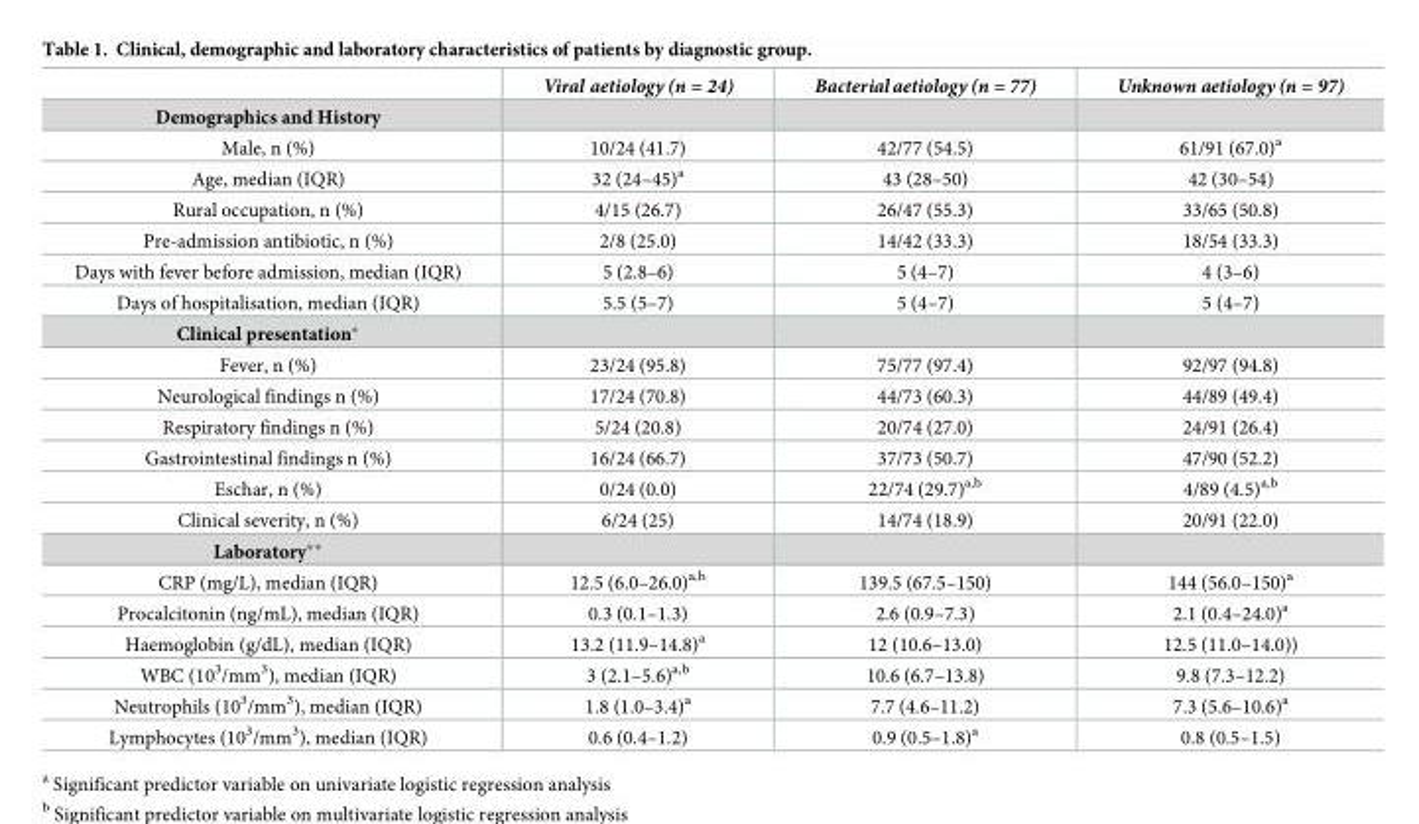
<table><thead><tr><td></td><td>Viral aetiology (n = 24)</td><td>Bacterial aetiology (n = 77)</td><td>Unknown aetiology (n = 97)</td></tr></thead><tbody><tr><td colspan="4">Demographics and History</td></tr><tr><td>Male, n (%)</td><td>10/24 (41.7)</td><td>42/77 (54.5)</td><td>61/91 (67.0)<sup>a</sup></td></tr><tr><td>Age, median (IQR)</td><td>32 (24–45)<sup>a</sup></td><td>43 (28–50)</td><td>42 (30–54)</td></tr><tr><td>Rural occupation, n (%)</td><td>4/15 (26.7)</td><td>26/47 (55.3)</td><td>33/65 (50.8)</td></tr><tr><td>Pre-admission antibiotic, n (%)</td><td>2/8 (25.0)</td><td>14/42 (33.3)</td><td>18/54 (33.3)</td></tr><tr><td>Days with fever before admission, median (IQR)</td><td>5 (2.8–6)</td><td>5 (4–7)</td><td>4 (3–6)</td></tr><tr><td>Days of hospitalisation, median (IQR)</td><td>5.5 (5–7)</td><td>5 (4–7)</td><td>5 (4–7)</td></tr><tr><td colspan="4">Clinical presentation*</td></tr><tr><td>Fever, n (%)</td><td>23/24 (95.8)</td><td>75/77 (97.4)</td><td>92/97 (94.8)</td></tr><tr><td>Neurological findings n (%)</td><td>17/24 (70.8)</td><td>44/73 (60.3)</td><td>44/89 (49.4)</td></tr><tr><td>Respiratory findings n (%)</td><td>5/24 (20.8)</td><td>20/74 (27.0)</td><td>24/91 (26.4)</td></tr><tr><td>Gastrointestinal findings n (%)</td><td>16/24 (66.7)</td><td>37/73 (50.7)</td><td>47/90 (52.2)</td></tr><tr><td>Eschar, n (%)</td><td>0/24 (0.0)</td><td>22/74 (29.7)<sup>a,b</sup></td><td>4/89 (4.5)<sup>a,b</sup></td></tr><tr><td>Clinical severity, n (%)</td><td>6/24 (25)</td><td>14/74 (18.9)</td><td>20/91 (22.0)</td></tr><tr><td colspan="4">Laboratory**</td></tr><tr><td>CRP (mg/L), median (IQR)</td><td>12.5 (6.0–26.0)<sup>a,b</sup></td><td>139.5 (67.5–150)</td><td>144 (56.0–150)<sup>a</sup></td></tr><tr><td>Procalcitonin (ng/mL), median (IQR)</td><td>0.3 (0.1–1.3)</td><td>2.6 (0.9–7.3)</td><td>2.1 (0.4–24.0)<sup>a</sup></td></tr><tr><td>Haemoglobin (g/dL), median (IQR)</td><td>13.2 (11.9–14.8)<sup>a</sup></td><td>12 (10.6–13.0)</td><td>12.5 (11.0–14.0))</td></tr><tr><td>WBC (10<sup>3</sup>/mm<sup>3</sup>), median (IQR)</td><td>3 (2.1–5.6)<sup>a,b</sup></td><td>10.6 (6.7–13.8)</td><td>9.8 (7.3–12.2)</td></tr><tr><td>Neutrophils (10<sup>3</sup>/mm<sup>3</sup>), median (IQR)</td><td>1.8 (1.0–3.4)<sup>a</sup></td><td>7.7 (4.6–11.2)</td><td>7.3 (5.6–10.6)<sup>a</sup></td></tr><tr><td>Lymphocytes (10<sup>3</sup>/mm<sup>3</sup>), median (IQR)</td><td>0.6 (0.4–1.2)</td><td>0.9 (0.5–1.8)<sup>a</sup></td><td>0.8 (0.5–1.5)</td></tr></tbody></table>